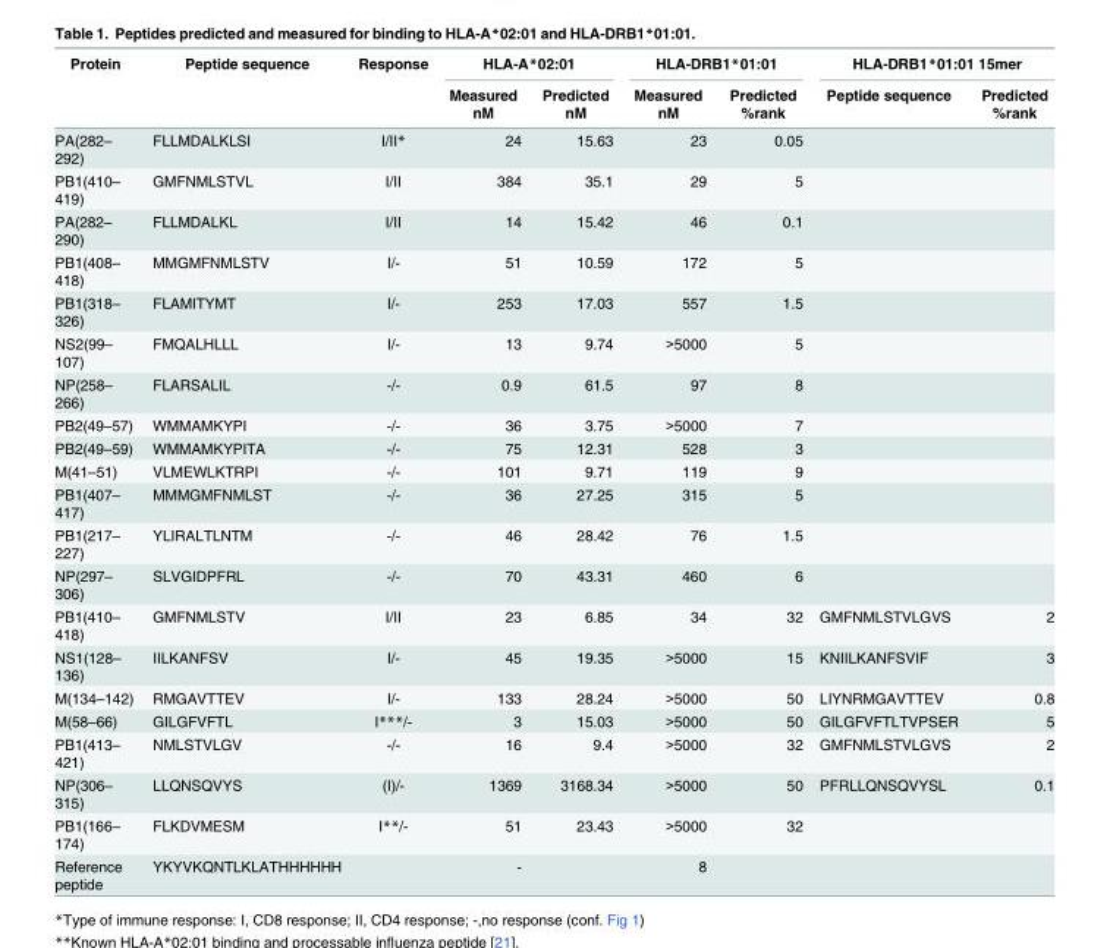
<table><thead><tr><td rowspan="2">Protein</td><td rowspan="2">Peptide sequence</td><td rowspan="2">Response</td><td colspan="2">HLA-A*02:01</td><td colspan="2">HLA-DRB1*01:01</td><td colspan="2">HLA-DRB1*01:01 15mer</td></tr><tr><td>Measured nM</td><td>Predicted nM</td><td>Measured nM</td><td>Predicted %rank</td><td>Peptide sequence</td><td>Predicted %rank</td></tr></thead><tbody><tr><td>PA(282– 292)</td><td>FLLMDALKLSI</td><td>I/II*</td><td>24</td><td>15.63</td><td>23</td><td>0.05</td><td></td><td></td></tr><tr><td>PB1(410– 419)</td><td>GMFNMLSTVL</td><td>I/II</td><td>384</td><td>35.1</td><td>29</td><td>5</td><td></td><td></td></tr><tr><td>PA(282– 290)</td><td>FLLMDALKL</td><td>I/II</td><td>14</td><td>15.42</td><td>46</td><td>0.1</td><td></td><td></td></tr><tr><td>PB1(408– 418)</td><td>MMGMFNMLSTV</td><td>I/-</td><td>51</td><td>10.59</td><td>172</td><td>5</td><td></td><td></td></tr><tr><td>PB1(318– 326)</td><td>FLAMITYMT</td><td>I/-</td><td>253</td><td>17.03</td><td>557</td><td>1.5</td><td></td><td></td></tr><tr><td>NS2(99– 107)</td><td>FMQALHLLL</td><td>I/-</td><td>13</td><td>9.74</td><td>&gt;5000</td><td>5</td><td></td><td></td></tr><tr><td>NP(258– 266)</td><td>FLARSALIL</td><td>-/-</td><td>0.9</td><td>61.5</td><td>97</td><td>8</td><td></td><td></td></tr><tr><td>PB2(49–57)</td><td>WMMAMKYPI</td><td>-/-</td><td>36</td><td>3.75</td><td>&gt;5000</td><td>7</td><td></td><td></td></tr><tr><td>PB2(49–59)</td><td>WMMAMKYPITA</td><td>-/-</td><td>75</td><td>12.31</td><td>528</td><td>3</td><td></td><td></td></tr><tr><td>M(41–51)</td><td>VLMEWLKTRPI</td><td>-/-</td><td>101</td><td>9.71</td><td>119</td><td>9</td><td></td><td></td></tr><tr><td>PB1(407– 417)</td><td>MMMGMFNMLST</td><td>-/-</td><td>36</td><td>27.25</td><td>315</td><td>5</td><td></td><td></td></tr><tr><td>PB1(217– 227)</td><td>YLIRALTLNTM</td><td>-/-</td><td>46</td><td>28.42</td><td>76</td><td>1.5</td><td></td><td></td></tr><tr><td>NP(297– 306)</td><td>SLVGIDPFRL</td><td>-/-</td><td>70</td><td>43.31</td><td>460</td><td>6</td><td></td><td></td></tr><tr><td>PB1(410– 418)</td><td>GMFNMLSTV</td><td>I/II</td><td>23</td><td>6.85</td><td>34</td><td>32</td><td>GMFNMLSTVLGVS</td><td>2</td></tr><tr><td>NS1(128– 136)</td><td>IILKANFSV</td><td>I/-</td><td>45</td><td>19.35</td><td>&gt;5000</td><td>15</td><td>KNIILKANFSVIF</td><td>3</td></tr><tr><td>M(134–142)</td><td>RMGAVTTEV</td><td>I/-</td><td>133</td><td>28.24</td><td>&gt;5000</td><td>50</td><td>LIYNRMGAVTTEV</td><td>0.8</td></tr><tr><td>M(58–66)</td><td>GILGFVFTL</td><td>I***/-</td><td>3</td><td>15.03</td><td>&gt;5000</td><td>50</td><td>GILGFVFTLTVPSER</td><td>5</td></tr><tr><td>PB1(413– 421)</td><td>NMLSTVLGV</td><td>-/-</td><td>16</td><td>9.4</td><td>&gt;5000</td><td>32</td><td>GMFNMLSTVLGVS</td><td>2</td></tr><tr><td>NP(306– 315)</td><td>LLQNSQVYS</td><td>(I)/-</td><td>1369</td><td>3168.34</td><td>&gt;5000</td><td>50</td><td>PFRLLQNSQVYSL</td><td>0.1</td></tr><tr><td>PB1(166– 174)</td><td>FLKDVMESM</td><td>I**/-</td><td>51</td><td>23.43</td><td>&gt;5000</td><td>32</td><td></td><td></td></tr><tr><td>Reference peptide</td><td>YKYVKQNTLKLATHHHHHH</td><td></td><td>-</td><td></td><td>8</td><td></td><td></td><td></td></tr></tbody></table>